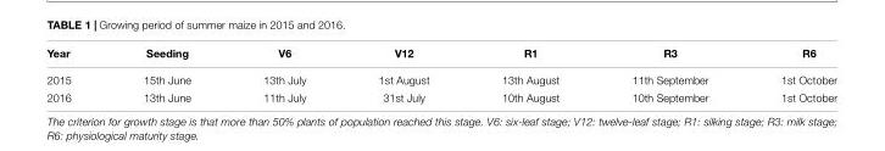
<table><thead><tr><td>Year</td><td>Seeding</td><td>V6</td><td>V12</td><td>R1</td><td>R3</td><td>R6</td></tr></thead><tbody><tr><td>2015</td><td>15th June</td><td>13th July</td><td>1st August</td><td>13th August</td><td>11th September</td><td>1st October</td></tr><tr><td>2016</td><td>13th June</td><td>11th July</td><td>31st July</td><td>10th August</td><td>10th September</td><td>1st October</td></tr></tbody></table>